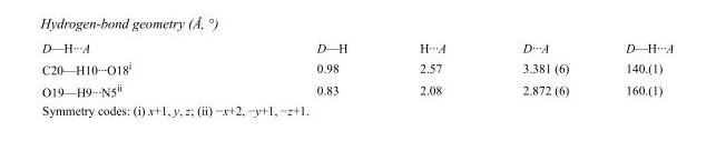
<table><tbody><tr><td>D—H···A</td><td>D—H</td><td>H···A</td><td>D···A</td><td>D—H···A</td></tr><tr><td>C20—H10···O18<sup>i</sup></td><td>0.98</td><td>2.57</td><td>3.381 (6)</td><td>140.(1)</td></tr><tr><td>O19—H9···N5<sup>ii</sup></td><td>0.83</td><td>2.08</td><td>2.872 (6)</td><td>160.(1)</td></tr></tbody></table>